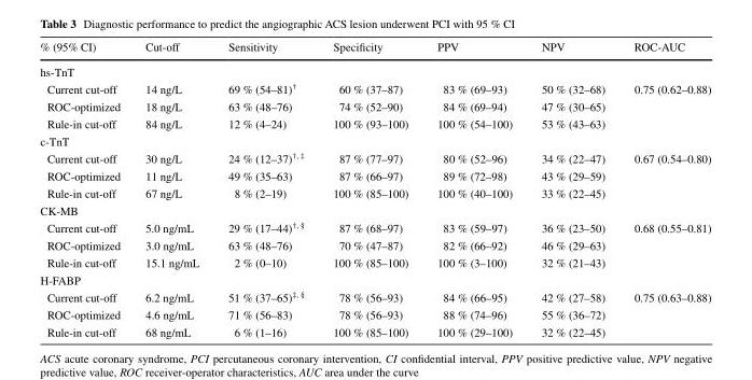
<table><thead><tr><td>% (95% CI)</td><td>Cut-off</td><td>Sensitivity</td><td>Specificity</td><td>PPV</td><td>NPV</td><td>ROC-AUC</td></tr></thead><tbody><tr><td colspan="7">hs-TnT</td></tr><tr><td>Current cut-off</td><td>14 ng/L</td><td>69 % (54–81)<sup>†</sup></td><td>60 % (37–87)</td><td>83 % (69–93)</td><td>50 % (32–68)</td><td rowspan="3">0.75 (0.62–0.88)</td></tr><tr><td>ROC-optimized</td><td>18 ng/L</td><td>63 % (48–76)</td><td>74 % (52–90)</td><td>84 % (69–94)</td><td>47 % (30–65)</td></tr><tr><td>Rule-in cut-off</td><td>84 ng/L</td><td>12 % (4–24)</td><td>100 % (93–100)</td><td>100 % (54–100)</td><td>53 % (43–63)</td></tr><tr><td colspan="7">c-TnT</td></tr><tr><td>Current cut-off</td><td>30 ng/L</td><td>24 % (12–37)<sup>†, ‡</sup></td><td>87 % (77–97)</td><td>80 % (52–96)</td><td>34 % (22–47)</td><td rowspan="3">0.67 (0.54–0.80)</td></tr><tr><td>ROC-optimized</td><td>11 ng/L</td><td>49 % (35–63)</td><td>87 % (66–97)</td><td>89 % (72–98)</td><td>43 % (29–59)</td></tr><tr><td>Rule-in cut-off</td><td>67 ng/L</td><td>8 % (2–19)</td><td>100 % (85–100)</td><td>100 % (40–100)</td><td>33 % (22–45)</td></tr><tr><td colspan="7">CK-MB</td></tr><tr><td>Current cut-off</td><td>5.0 ng/mL</td><td>29 % (17–44)<sup>†, §</sup></td><td>87 % (68–97)</td><td>83 % (59–97)</td><td>36 % (23–50)</td><td rowspan="3">0.68 (0.55–0.81)</td></tr><tr><td>ROC-optimized</td><td>3.0 ng/mL</td><td>63 % (48–76)</td><td>70 % (47–87)</td><td>82 % (66–92)</td><td>46 % (29–63)</td></tr><tr><td>Rule-in cut-off</td><td>15.1 ng/mL</td><td>2 % (0–10)</td><td>100 % (85–100)</td><td>100 % (3–100)</td><td>32 % (21–43)</td></tr><tr><td colspan="7">H-FABP</td></tr><tr><td>Current cut-off</td><td>6.2 ng/mL</td><td>51 % (37–65)<sup>‡, §</sup></td><td>78 % (56–93)</td><td>84 % (66–95)</td><td>42 % (27–58)</td><td>0.75 (0.63–0.88)</td></tr><tr><td>ROC-optimized</td><td>4.6 ng/mL</td><td>71 % (56–83)</td><td>78 % (56–93)</td><td>88 % (74–96)</td><td>55 % (36–72)</td><td></td></tr><tr><td>Rule-in cut-off</td><td>68 ng/mL</td><td>6 % (1–16)</td><td>100 % (85–100)</td><td>100 % (29–100)</td><td>32 % (22–45)</td><td></td></tr></tbody></table>